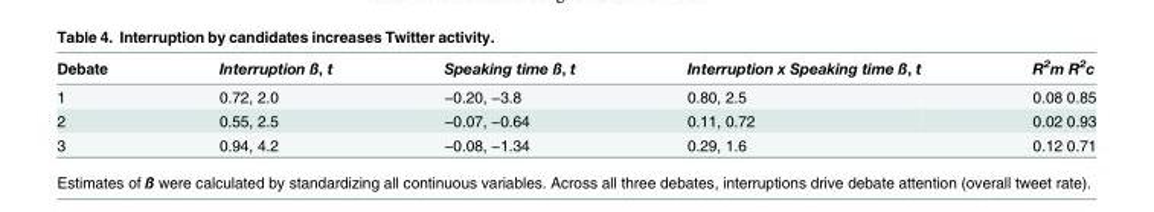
<table><thead><tr><td>Debate</td><td>Interruption ß, t</td><td>Speaking time ß, t</td><td>Interruption x Speaking time ß, t</td><td>R<sup>2</sup>m R<sup>2</sup>c</td></tr></thead><tbody><tr><td>1</td><td>0.72, 2.0</td><td>−0.20, −3.8</td><td>0.80, 2.5</td><td>0.08 0.85</td></tr><tr><td>2</td><td>0.55, 2.5</td><td>−0.07, −0.64</td><td>0.11, 0.72</td><td>0.02 0.93</td></tr><tr><td>3</td><td>0.94, 4.2</td><td>−0.08, −1.34</td><td>0.29, 1.6</td><td>0.12 0.71</td></tr></tbody></table>